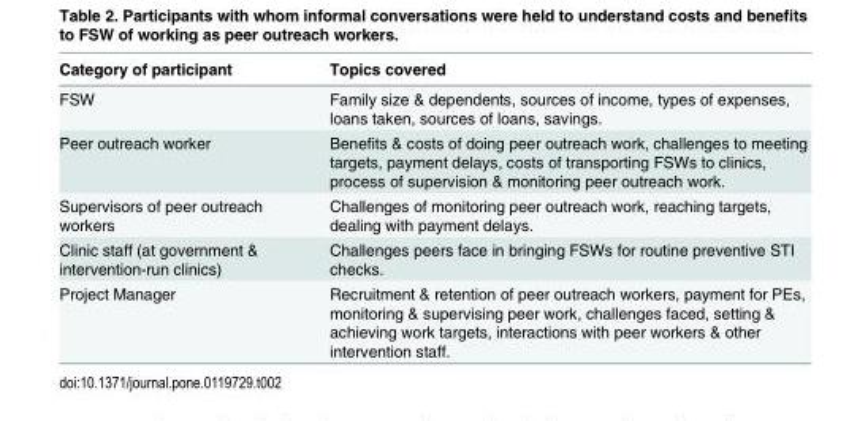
<table><thead><tr><td>Category of participant</td><td>Topics covered</td></tr></thead><tbody><tr><td>FSW</td><td>Family size &amp; dependents, sources of income, types of expenses, loans taken, sources of loans, savings.</td></tr><tr><td>Peer outreach worker</td><td>Benefits &amp; costs of doing peer outreach work, challenges to meeting targets, payment delays, costs of transporting FSWs to clinics, process of supervision &amp; monitoring peer outreach work.</td></tr><tr><td>Supervisors of peer outreach workers</td><td>Challenges of monitoring peer outreach work, reaching targets, dealing with payment delays.</td></tr><tr><td>Clinic staff (at government &amp; intervention-run clinics)</td><td>Challenges peers face in bringing FSWs for routine preventive STI checks.</td></tr><tr><td>Project Manager</td><td>Recruitment &amp; retention of peer outreach workers, payment for PEs, monitoring &amp; supervising peer work, challenges faced, setting &amp; achieving work targets, interactions with peer workers &amp; other intervention staff.</td></tr></tbody></table>